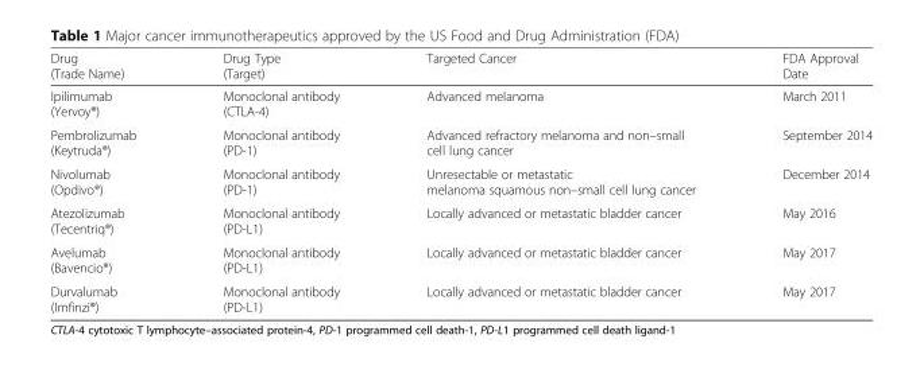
<table><thead><tr><td>Drug (Trade Name)</td><td>Drug Type (Target)</td><td>Targeted Cancer</td><td>FDA Approval Date</td></tr></thead><tbody><tr><td>Ipilimumab (Yervoy®)</td><td>Monoclonal antibody (CTLA-4)</td><td>Advanced melanoma</td><td>March 2011</td></tr><tr><td>Pembrolizumab (Keytruda®)</td><td>Monoclonal antibody (PD-1)</td><td>Advanced refractory melanoma and non–small cell lung cancer</td><td>September 2014</td></tr><tr><td>Nivolumab (Opdivo®)</td><td>Monoclonal antibody (PD-1)</td><td>Unresectable or metastatic melanoma squamous non–small cell lung cancer</td><td>December 2014</td></tr><tr><td>Atezolizumab (Tecentriq®)</td><td>Monoclonal antibody (PD-L1)</td><td>Locally advanced or metastatic bladder cancer</td><td>May 2016</td></tr><tr><td>Avelumab (Bavencio®)</td><td>Monoclonal antibody (PD-L1)</td><td>Locally advanced or metastatic bladder cancer</td><td>May 2017</td></tr><tr><td>Durvalumab (Imfinzi®)</td><td>Monoclonal antibody (PD-L1)</td><td>Locally advanced or metastatic bladder cancer</td><td>May 2017</td></tr></tbody></table>